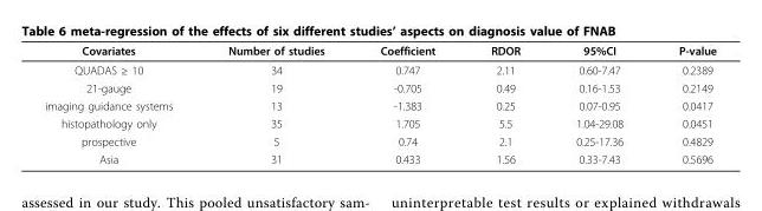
<table><thead><tr><td>Covariates</td><td>Number of studies</td><td>Coefficient</td><td>RDOR</td><td>95%CI</td><td>P-value</td></tr></thead><tbody><tr><td>QUADAS ≥ 10</td><td>34</td><td>0.747</td><td>2.11</td><td>0.60-7.47</td><td>0.2389</td></tr><tr><td>21-gauge</td><td>19</td><td>-0.705</td><td>0.49</td><td>0.16-1.53</td><td>0.2149</td></tr><tr><td>imaging guidance systems</td><td>13</td><td>-1.383</td><td>0.25</td><td>0.07-0.95</td><td>0.0417</td></tr><tr><td>histopathology only</td><td>35</td><td>1.705</td><td>5.5</td><td>1.04-29.08</td><td>0.0451</td></tr><tr><td>prospective</td><td>5</td><td>0.74</td><td>2.1</td><td>0.25-17.36</td><td>0.4829</td></tr><tr><td>Asia</td><td>31</td><td>0.433</td><td>1.56</td><td>0.33-7.43</td><td>0.5696</td></tr></tbody></table>